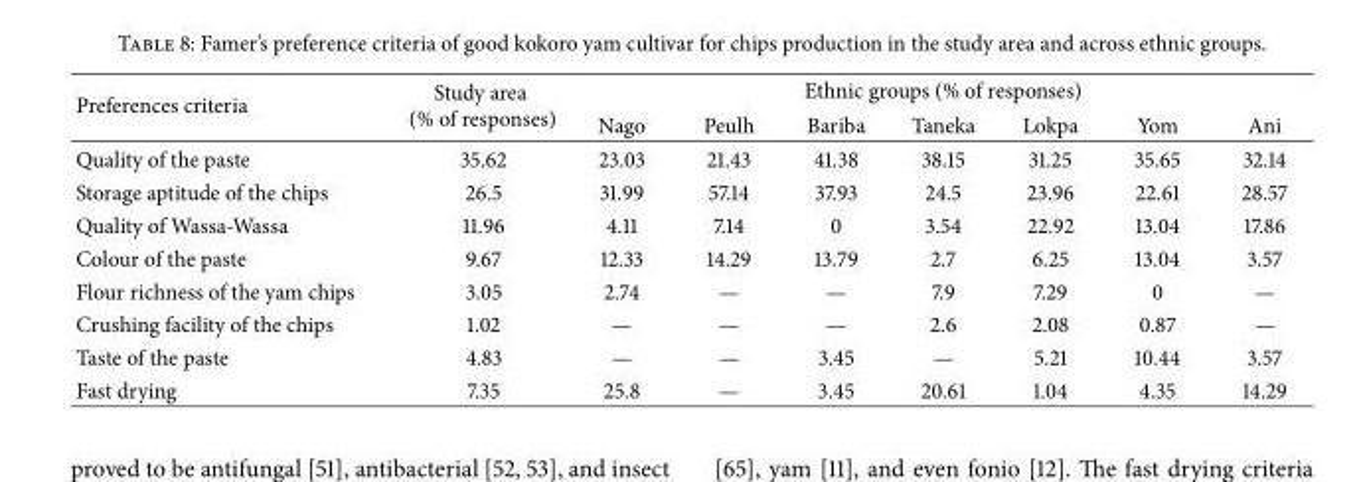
<table><thead><tr><td rowspan="2">Preferences criteria</td><td rowspan="2">Study area (% of responses)</td><td colspan="7">Ethnic groups (% of responses)</td></tr><tr><td>Nago</td><td>Peulh</td><td>Bariba</td><td>Taneka</td><td>Lokpa</td><td>Yom</td><td>Ani</td></tr></thead><tbody><tr><td>Quality of the paste</td><td>35.62</td><td>23.03</td><td>21.43</td><td>41.38</td><td>38.15</td><td>31.25</td><td>35.65</td><td>32.14</td></tr><tr><td>Storage aptitude of the chips</td><td>26.5</td><td>31.99</td><td>57.14</td><td>37.93</td><td>24.5</td><td>23.96</td><td>22.61</td><td>28.57</td></tr><tr><td>Quality of Wassa-Wassa</td><td>11.96</td><td>4.11</td><td>7.14</td><td>0</td><td>3.54</td><td>22.92</td><td>13.04</td><td>17.86</td></tr><tr><td>Colour of the paste</td><td>9.67</td><td>12.33</td><td>14.29</td><td>13.79</td><td>2.7</td><td>6.25</td><td>13.04</td><td>3.57</td></tr><tr><td>Flour richness of the yam chips</td><td>3.05</td><td>2.74</td><td>—</td><td>—</td><td>7.9</td><td>7.29</td><td>0</td><td>—</td></tr><tr><td>Crushing facility of the chips</td><td>1.02</td><td>—</td><td>—</td><td>—</td><td>2.6</td><td>2.08</td><td>0.87</td><td>—</td></tr><tr><td>Taste of the paste</td><td>4.83</td><td>—</td><td>—</td><td>3.45</td><td>—</td><td>5.21</td><td>10.44</td><td>3.57</td></tr><tr><td>Fast drying</td><td>7.35</td><td>25.8</td><td>—</td><td>3.45</td><td>20.61</td><td>1.04</td><td>4.35</td><td>14.29</td></tr></tbody></table>